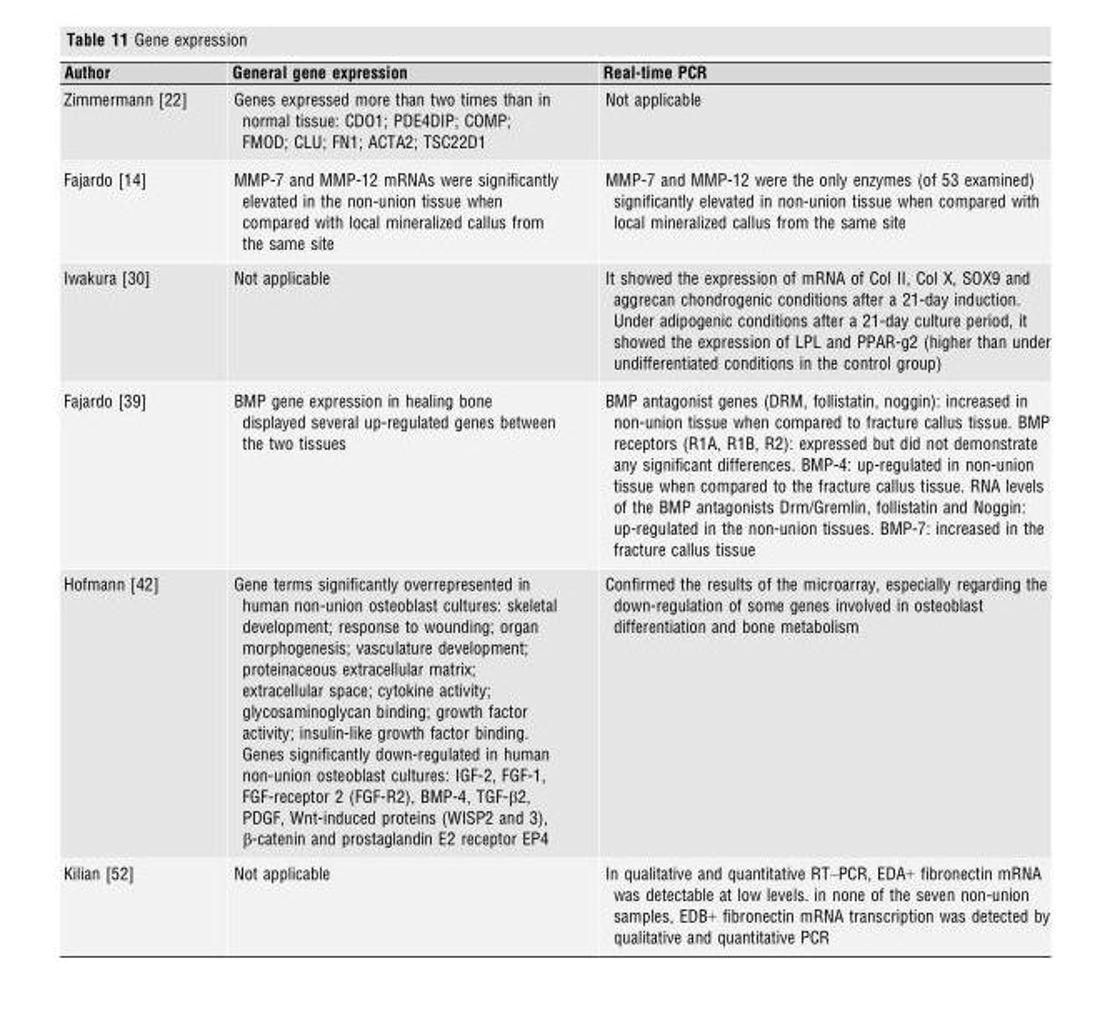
<table><thead><tr><td>Author</td><td>General gene expression</td><td>Real-time PCR</td></tr></thead><tbody><tr><td>Zimmermann [22]</td><td>Genes expressed more than two times than in normal tissue: CDO1; PDE4DIP; COMP; FMOD; CLU; FN1; ACTA2; TSC22D1</td><td>Not applicable</td></tr><tr><td>Fajardo [14]</td><td>MMP-7 and MMP-12 mRNAs were significantly elevated in the non-union tissue when compared with local mineralized callus from the same site</td><td>MMP-7 and MMP-12 were the only enzymes (of 53 examined) significantly elevated in non-union tissue when compared with local mineralized callus from the same site</td></tr><tr><td>Iwakura [30]</td><td>Not applicable</td><td>It showed the expression of mRNA of Col II, Col X, SOX9 and aggrecan chondrogenic conditions after a 21-day induction. Under adipogenic conditions after a 21-day culture period, it showed the expression of LPL and PPAR-g2 (higher than under undifferentiated conditions in the control group)</td></tr><tr><td>Fajardo [39]</td><td>BMP gene expression in healing bone displayed several up-regulated genes between the two tissues</td><td>BMP antagonist genes (DRM, follistatin, noggin): increased in non-union tissue when compared to fracture callus tissue. BMP receptors (R1A, R1B, R2): expressed but did not demonstrate any significant differences. BMP-4: up-regulated in non-union tissue when compared to the fracture callus tissue. RNA levels of the BMP antagonists Drm/Gremlin, follistatin and Noggin: up-regulated in the non-union tissues. BMP-7: increased in the fracture callus tissue</td></tr><tr><td>Hofmann [42]</td><td>Gene terms significantly overrepresented in human non-union osteoblast cultures: skeletal development; response to wounding; organ morphogenesis; vasculature development; proteinaceous extracellular matrix; extracellular space; cytokine activity; glycosaminoglycan binding; growth factor activity; insulin-like growth factor binding. Genes significantly down-regulated in human non-union osteoblast cultures: IGF-2, FGF-1, FGF-receptor 2 (FGF-R2), BMP-4, TGF-β2, PDGF, Wnt-induced proteins (WISP2 and 3), β-catenin and prostaglandin E2 receptor EP4</td><td>Confirmed the results of the microarray, especially regarding the down-regulation of some genes involved in osteoblast differentiation and bone metabolism</td></tr><tr><td>Kilian [52]</td><td>Not applicable</td><td>In qualitative and quantitative RT–PCR, EDA+ fibronectin mRNA was detectable at low levels. in none of the seven non-union samples, EDB+ fibronectin mRNA transcription was detected by qualitative and quantitative PCR</td></tr></tbody></table>